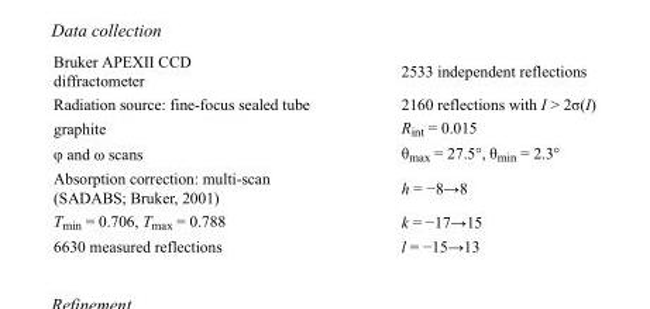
<table><tbody><tr><td>Bruker APEXII CCD diffractometer</td><td>2533 independent reflections</td></tr><tr><td>Radiation source: fine-focus sealed tube</td><td>2160 reflections with I &gt; 2σ(I)</td></tr><tr><td>graphite</td><td>R<sub>int</sub> = 0.015</td></tr><tr><td>φ and ω scans</td><td>θ<sub>max</sub> = 27.5°, θ<sub>min</sub> = 2.3°</td></tr><tr><td>Absorption correction: multi-scan (SADABS; Bruker, 2001)</td><td>h = −8→8</td></tr><tr><td>T<sub>min</sub> = 0.706, T<sub>max</sub> = 0.788</td><td>k = −17→15</td></tr><tr><td>6630 measured reflections</td><td>l = −15→13</td></tr></tbody></table>